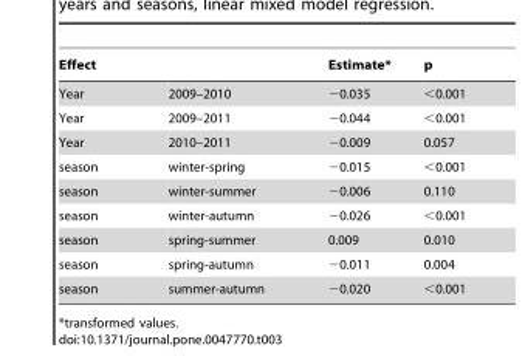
<table><thead><tr><td>Effect</td><td></td><td>Estimate*</td><td>p</td></tr></thead><tbody><tr><td>Year</td><td>2009–2010</td><td>−0.035</td><td>&lt;0.001</td></tr><tr><td>Year</td><td>2009–2011</td><td>−0.044</td><td>&lt;0.001</td></tr><tr><td>Year</td><td>2010–2011</td><td>−0.009</td><td>0.057</td></tr><tr><td>season</td><td>winter-spring</td><td>−0.015</td><td>&lt;0.001</td></tr><tr><td>season</td><td>winter-summer</td><td>−0.006</td><td>0.110</td></tr><tr><td>season</td><td>winter-autumn</td><td>−0.026</td><td>&lt;0.001</td></tr><tr><td>season</td><td>spring-summer</td><td>0.009</td><td>0.010</td></tr><tr><td>season</td><td>spring-autumn</td><td>−0.011</td><td>0.004</td></tr><tr><td>season</td><td>summer-autumn</td><td>−0.020</td><td>&lt;0.001</td></tr></tbody></table>